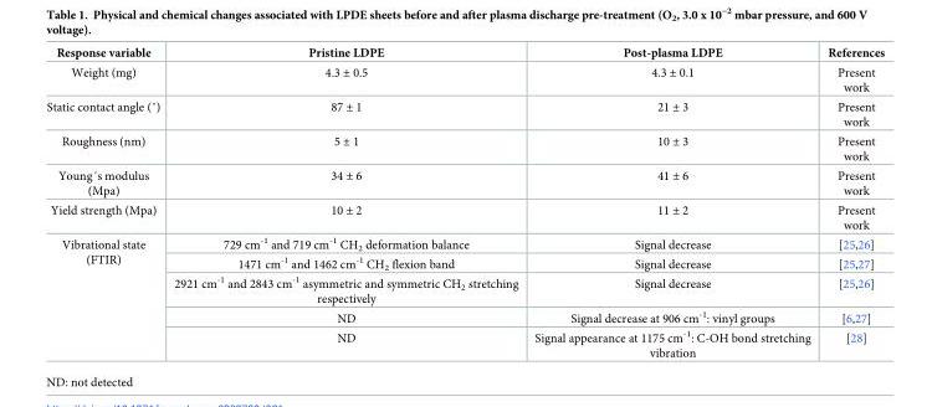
<table><thead><tr><td>Response variable</td><td>Pristine LDPE</td><td>Post-plasma LDPE</td><td>References</td></tr></thead><tbody><tr><td>Weight (mg)</td><td>4.3 ± 0.5</td><td>4.3 ± 0.1</td><td>Present work</td></tr><tr><td>Static contact angle (˚)</td><td>87 ± 1</td><td>21 ± 3</td><td>Present work</td></tr><tr><td>Roughness (nm)</td><td>5 ± 1</td><td>10 ± 3</td><td>Present work</td></tr><tr><td>Young´s modulus (Mpa)</td><td>34 ± 6</td><td>41 ± 6</td><td>Present work</td></tr><tr><td>Yield strength (Mpa)</td><td>10 ± 2</td><td>11 ± 2</td><td>Present work</td></tr><tr><td rowspan="5">Vibrational state (FTIR)</td><td>729 cm<sup>-1</sup> and 719 cm<sup>-1</sup> CH<sub>2</sub> deformation balance</td><td>Signal decrease</td><td>[25,26]</td></tr><tr><td>1471 cm<sup>-1</sup> and 1462 cm<sup>-1</sup> CH<sub>2</sub> flexion band</td><td>Signal decrease</td><td>[25,27]</td></tr><tr><td>2921 cm<sup>-1</sup> and 2843 cm<sup>-1</sup> asymmetric and symmetric CH<sub>2</sub> stretching respectively</td><td>Signal decrease</td><td>[25,26]</td></tr><tr><td>ND</td><td>Signal decrease at 906 cm<sup>-1</sup>: vinyl groups</td><td>[6,27]</td></tr><tr><td>ND</td><td>Signal appearance at 1175 cm<sup>-1</sup>: C-OH bond stretching vibration</td><td>[28]</td></tr></tbody></table>